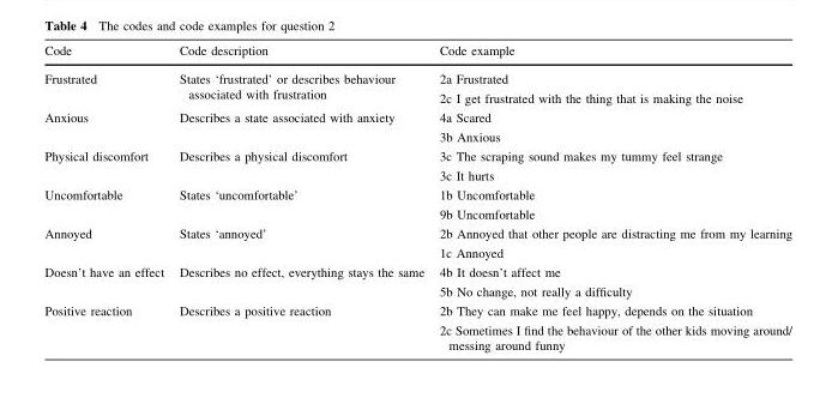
<table><thead><tr><td>Code</td><td>Code description</td><td>Code example</td></tr></thead><tbody><tr><td rowspan="2">Frustrated</td><td rowspan="2">States ‘frustrated’ or describes behaviour associated with frustration</td><td>2a Frustrated</td></tr><tr><td>2c I get frustrated with the thing that is making the noise</td></tr><tr><td rowspan="2">Anxious</td><td rowspan="2">Describes a state associated with anxiety</td><td>4a Scared</td></tr><tr><td>3b Anxious</td></tr><tr><td rowspan="2">Physical discomfort</td><td rowspan="2">Describes a physical discomfort</td><td>3c The scraping sound makes my tummy feel strange</td></tr><tr><td>3c It hurts</td></tr><tr><td rowspan="2">Uncomfortable</td><td rowspan="2">States ‘uncomfortable’</td><td>1b Uncomfortable</td></tr><tr><td>9b Uncomfortable</td></tr><tr><td rowspan="2">Annoyed</td><td rowspan="2">States ‘annoyed’</td><td>2b Annoyed that other people are distracting me from my learning</td></tr><tr><td>1c Annoyed</td></tr><tr><td rowspan="2">Doesn’t have an effect</td><td rowspan="2">Describes no effect, everything stays the same</td><td>4b It doesn’t affect me</td></tr><tr><td>5b No change, not really a difficulty</td></tr><tr><td rowspan="2">Positive reaction</td><td rowspan="2">Describes a positive reaction</td><td>2b They can make me feel happy, depends on the situation</td></tr><tr><td>2c Sometimes I find the behaviour of the other kids moving around/ messing around funny</td></tr></tbody></table>